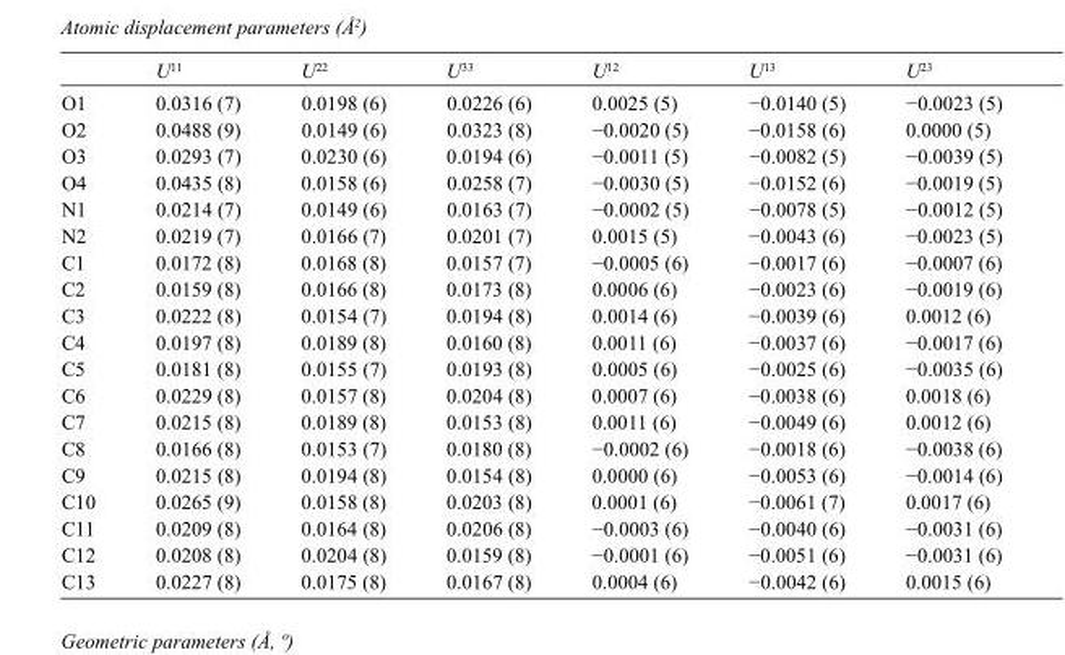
<table><thead><tr><td></td><td>U<sup>11</sup></td><td>U<sup>22</sup></td><td>U<sup>33</sup></td><td>U<sup>12</sup></td><td>U<sup>13</sup></td><td>U<sup>23</sup></td></tr></thead><tbody><tr><td>O1</td><td>0.0316 (7)</td><td>0.0198 (6)</td><td>0.0226 (6)</td><td>0.0025 (5)</td><td>−0.0140 (5)</td><td>−0.0023 (5)</td></tr><tr><td>O2</td><td>0.0488 (9)</td><td>0.0149 (6)</td><td>0.0323 (8)</td><td>−0.0020 (5)</td><td>−0.0158 (6)</td><td>0.0000 (5)</td></tr><tr><td>O3</td><td>0.0293 (7)</td><td>0.0230 (6)</td><td>0.0194 (6)</td><td>−0.0011 (5)</td><td>−0.0082 (5)</td><td>−0.0039 (5)</td></tr><tr><td>O4</td><td>0.0435 (8)</td><td>0.0158 (6)</td><td>0.0258 (7)</td><td>−0.0030 (5)</td><td>−0.0152 (6)</td><td>−0.0019 (5)</td></tr><tr><td>N1</td><td>0.0214 (7)</td><td>0.0149 (6)</td><td>0.0163 (7)</td><td>−0.0002 (5)</td><td>−0.0078 (5)</td><td>−0.0012 (5)</td></tr><tr><td>N2</td><td>0.0219 (7)</td><td>0.0166 (7)</td><td>0.0201 (7)</td><td>0.0015 (5)</td><td>−0.0043 (6)</td><td>−0.0023 (5)</td></tr><tr><td>C1</td><td>0.0172 (8)</td><td>0.0168 (8)</td><td>0.0157 (7)</td><td>−0.0005 (6)</td><td>−0.0017 (6)</td><td>−0.0007 (6)</td></tr><tr><td>C2</td><td>0.0159 (8)</td><td>0.0166 (8)</td><td>0.0173 (8)</td><td>0.0006 (6)</td><td>−0.0023 (6)</td><td>−0.0019 (6)</td></tr><tr><td>C3</td><td>0.0222 (8)</td><td>0.0154 (7)</td><td>0.0194 (8)</td><td>0.0014 (6)</td><td>−0.0039 (6)</td><td>0.0012 (6)</td></tr><tr><td>C4</td><td>0.0197 (8)</td><td>0.0189 (8)</td><td>0.0160 (8)</td><td>0.0011 (6)</td><td>−0.0037 (6)</td><td>−0.0017 (6)</td></tr><tr><td>C5</td><td>0.0181 (8)</td><td>0.0155 (7)</td><td>0.0193 (8)</td><td>0.0005 (6)</td><td>−0.0025 (6)</td><td>−0.0035 (6)</td></tr><tr><td>C6</td><td>0.0229 (8)</td><td>0.0157 (8)</td><td>0.0204 (8)</td><td>0.0007 (6)</td><td>−0.0038 (6)</td><td>0.0018 (6)</td></tr><tr><td>C7</td><td>0.0215 (8)</td><td>0.0189 (8)</td><td>0.0153 (8)</td><td>0.0011 (6)</td><td>−0.0049 (6)</td><td>0.0012 (6)</td></tr><tr><td>C8</td><td>0.0166 (8)</td><td>0.0153 (7)</td><td>0.0180 (8)</td><td>−0.0002 (6)</td><td>−0.0018 (6)</td><td>−0.0038 (6)</td></tr><tr><td>C9</td><td>0.0215 (8)</td><td>0.0194 (8)</td><td>0.0154 (8)</td><td>0.0000 (6)</td><td>−0.0053 (6)</td><td>−0.0014 (6)</td></tr><tr><td>C10</td><td>0.0265 (9)</td><td>0.0158 (8)</td><td>0.0203 (8)</td><td>0.0001 (6)</td><td>−0.0061 (7)</td><td>0.0017 (6)</td></tr><tr><td>C11</td><td>0.0209 (8)</td><td>0.0164 (8)</td><td>0.0206 (8)</td><td>−0.0003 (6)</td><td>−0.0040 (6)</td><td>−0.0031 (6)</td></tr><tr><td>C12</td><td>0.0208 (8)</td><td>0.0204 (8)</td><td>0.0159 (8)</td><td>−0.0001 (6)</td><td>−0.0051 (6)</td><td>−0.0031 (6)</td></tr><tr><td>C13</td><td>0.0227 (8)</td><td>0.0175 (8)</td><td>0.0167 (8)</td><td>0.0004 (6)</td><td>−0.0042 (6)</td><td>0.0015 (6)</td></tr></tbody></table>